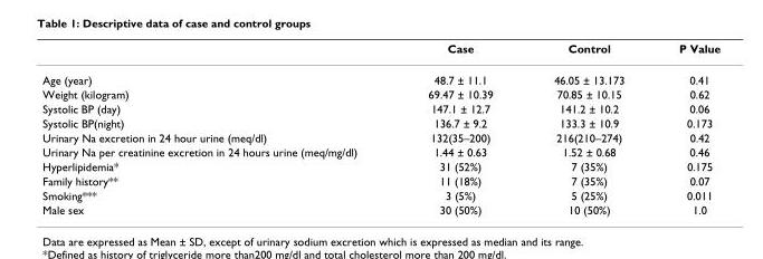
<table><thead><tr><td></td><td>Case</td><td>Control</td><td>P Value</td></tr></thead><tbody><tr><td>Age (year)</td><td>48.7 ± 11.1</td><td>46.05 ± 13.173</td><td>0.41</td></tr><tr><td>Weight (kilogram)</td><td>69.47 ± 10.39</td><td>70.85 ± 10.15</td><td>0.62</td></tr><tr><td>Systolic BP (day)</td><td>147.1 ± 12.7</td><td>141.2 ± 10.2</td><td>0.06</td></tr><tr><td>Systolic BP(night)</td><td>136.7 ± 9.2</td><td>133.3 ± 10.9</td><td>0.173</td></tr><tr><td>Urinary Na excretion in 24 hour urine (meq/dl)</td><td>132(35–200)</td><td>216(210–274)</td><td>0.42</td></tr><tr><td>Urinary Na per creatinine excretion in 24 hours urine (meq/mg/dl)</td><td>1.44 ± 0.63</td><td>1.52 ± 0.68</td><td>0.46</td></tr><tr><td>Hyperlipidemia*</td><td>31 (52%)</td><td>7 (35%)</td><td>0.175</td></tr><tr><td>Family history**</td><td>11 (18%)</td><td>7 (35%)</td><td>0.07</td></tr><tr><td>Smoking***</td><td>3 (5%)</td><td>5 (25%)</td><td>0.011</td></tr><tr><td>Male sex</td><td>30 (50%)</td><td>10 (50%)</td><td>1.0</td></tr></tbody></table>